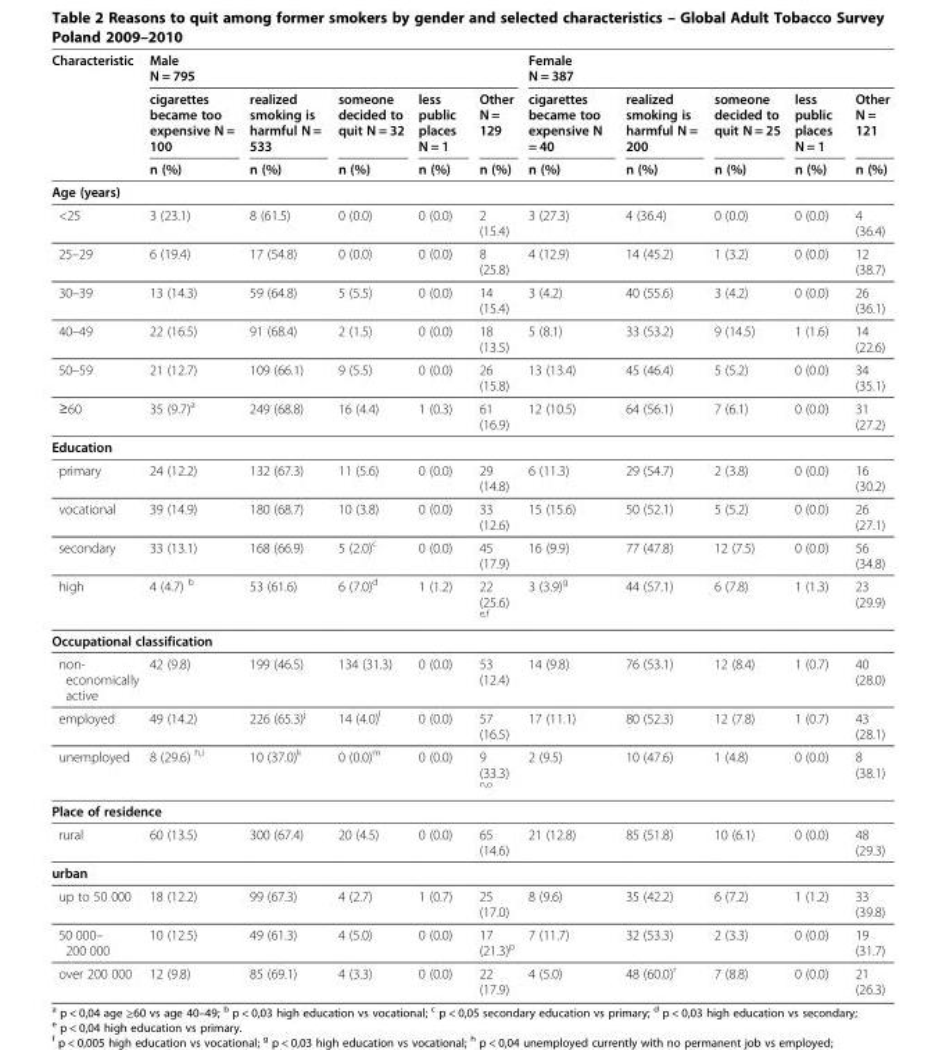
<table><thead><tr><td rowspan="3">Characteristic</td><td colspan="5">Male N = 795</td><td colspan="5">Female N = 387</td></tr><tr><td rowspan="2">cigarettes became too expensive N = 100 n (%)</td><td rowspan="2">realized smoking is harmful N = 533 n (%)</td><td rowspan="2">someone decided to quit N = 32 n (%)</td><td rowspan="2">less public places N = 1 n (%)</td><td rowspan="2">Other N = 129 n (%)</td><td rowspan="2">cigarettes became too expensive N = 40 n (%)</td><td rowspan="2">realized smoking is harmful N = 200 n (%)</td><td rowspan="2">someone decided to quit N = 25 n (%)</td><td rowspan="2">less public places N = 1 n (%)</td><td rowspan="2">Other N = 121 n (%)</td></tr><tr></tr></thead><tbody><tr><td colspan="11">Age (years)</td></tr><tr><td>&lt;25</td><td>3 (23.1)</td><td>8 (61.5)</td><td>0 (0.0)</td><td>0 (0.0)</td><td>2 (15.4)</td><td>3 (27.3)</td><td>4 (36.4)</td><td>0 (0.0)</td><td>0 (0.0)</td><td>4 (36.4)</td></tr><tr><td>25–29</td><td>6 (19.4)</td><td>17 (54.8)</td><td>0 (0.0)</td><td>0 (0.0)</td><td>8 (25.8)</td><td>4 (12.9)</td><td>14 (45.2)</td><td>1 (3.2)</td><td>0 (0.0)</td><td>12 (38.7)</td></tr><tr><td>30–39</td><td>13 (14.3)</td><td>59 (64.8)</td><td>5 (5.5)</td><td>0 (0.0)</td><td>14 (15.4)</td><td>3 (4.2)</td><td>40 (55.6)</td><td>3 (4.2)</td><td>0 (0.0)</td><td>26 (36.1)</td></tr><tr><td>40–49</td><td>22 (16.5)</td><td>91 (68.4)</td><td>2 (1.5)</td><td>0 (0.0)</td><td>18 (13.5)</td><td>5 (8.1)</td><td>33 (53.2)</td><td>9 (14.5)</td><td>1 (1.6)</td><td>14 (22.6)</td></tr><tr><td>50–59</td><td>21 (12.7)</td><td>109 (66.1)</td><td>9 (5.5)</td><td>0 (0.0)</td><td>26 (15.8)</td><td>13 (13.4)</td><td>45 (46.4)</td><td>5 (5.2)</td><td>0 (0.0)</td><td>34 (35.1)</td></tr><tr><td>≥60</td><td>35 (9.7)<sup>a</sup></td><td>249 (68.8)</td><td>16 (4.4)</td><td>1 (0.3)</td><td>61 (16.9)</td><td>12 (10.5)</td><td>64 (56.1)</td><td>7 (6.1)</td><td>0 (0.0)</td><td>31 (27.2)</td></tr><tr><td colspan="11">Education</td></tr><tr><td>primary</td><td>24 (12.2)</td><td>132 (67.3)</td><td>11 (5.6)</td><td>0 (0.0)</td><td>29 (14.8)</td><td>6 (11.3)</td><td>29 (54.7)</td><td>2 (3.8)</td><td>0 (0.0)</td><td>16 (30.2)</td></tr><tr><td>vocational</td><td>39 (14.9)</td><td>180 (68.7)</td><td>10 (3.8)</td><td>0 (0.0)</td><td>33 (12.6)</td><td>15 (15.6)</td><td>50 (52.1)</td><td>5 (5.2)</td><td>0 (0.0)</td><td>26 (27.1)</td></tr><tr><td>secondary</td><td>33 (13.1)</td><td>168 (66.9)</td><td>5 (2.0)<sup>c</sup></td><td>0 (0.0)</td><td>45 (17.9)</td><td>16 (9.9)</td><td>77 (47.8)</td><td>12 (7.5)</td><td>0 (0.0)</td><td>56 (34.8)</td></tr><tr><td>high</td><td>4 (4.7) <sup>b</sup></td><td>53 (61.6)</td><td>6 (7.0)<sup>d</sup></td><td>1 (1.2)</td><td>22 (25.6) <sup>e,f</sup></td><td>3 (3.9)<sup>g</sup></td><td>44 (57.1)</td><td>6 (7.8)</td><td>1 (1.3)</td><td>23 (29.9)</td></tr><tr><td colspan="11">Occupational classification</td></tr><tr><td>non- economically active</td><td>42 (9.8)</td><td>199 (46.5)</td><td>134 (31.3)</td><td>0 (0.0)</td><td>53 (12.4)</td><td>14 (9.8)</td><td>76 (53.1)</td><td>12 (8.4)</td><td>1 (0.7)</td><td>40 (28.0)</td></tr><tr><td>employed</td><td>49 (14.2)</td><td>226 (65.3)<sup>j</sup></td><td>14 (4.0)<sup>l</sup></td><td>0 (0.0)</td><td>57 (16.5)</td><td>17 (11.1)</td><td>80 (52.3)</td><td>12 (7.8)</td><td>1 (0.7)</td><td>43 (28.1)</td></tr><tr><td>unemployed</td><td>8 (29.6) <sup>h,i</sup></td><td>10 (37.0)<sup>k</sup></td><td>0 (0.0)<sup>m</sup></td><td>0 (0.0)</td><td>9 (33.3) <sup>n,o</sup></td><td>2 (9.5)</td><td>10 (47.6)</td><td>1 (4.8)</td><td>0 (0.0)</td><td>8 (38.1)</td></tr><tr><td colspan="11">Place of residence</td></tr><tr><td>rural</td><td>60 (13.5)</td><td>300 (67.4)</td><td>20 (4.5)</td><td>0 (0.0)</td><td>65 (14.6)</td><td>21 (12.8)</td><td>85 (51.8)</td><td>10 (6.1)</td><td>0 (0.0)</td><td>48 (29.3)</td></tr><tr><td colspan="11">urban</td></tr><tr><td>up to 50 000</td><td>18 (12.2)</td><td>99 (67.3)</td><td>4 (2.7)</td><td>1 (0.7)</td><td>25 (17.0)</td><td>8 (9.6)</td><td>35 (42.2)</td><td>6 (7.2)</td><td>1 (1.2)</td><td>33 (39.8)</td></tr><tr><td>50 000– 200 000</td><td>10 (12.5)</td><td>49 (61.3)</td><td>4 (5.0)</td><td>0 (0.0)</td><td>17 (21.3)<sup>p</sup></td><td>7 (11.7)</td><td>32 (53.3)</td><td>2 (3.3)</td><td>0 (0.0)</td><td>19 (31.7)</td></tr><tr><td>over 200 000</td><td>12 (9.8)</td><td>85 (69.1)</td><td>4 (3.3)</td><td>0 (0.0)</td><td>22 (17.9)</td><td>4 (5.0)</td><td>48 (60.0)<sup>r</sup></td><td>7 (8.8)</td><td>0 (0.0)</td><td>21 (26.3)</td></tr></tbody></table>